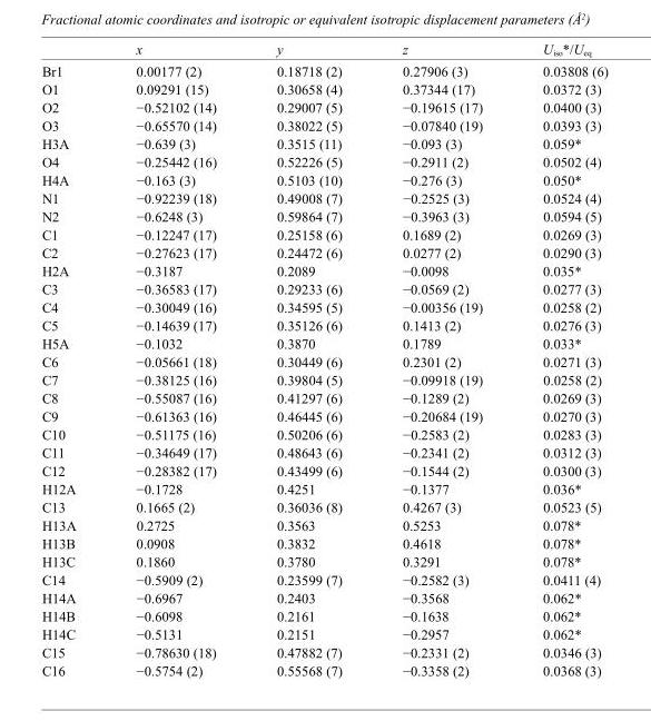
<table><thead><tr><td></td><td>x</td><td>y</td><td>z</td><td>U<sub>iso</sub>*/U<sub>eq</sub></td></tr></thead><tbody><tr><td>Br1</td><td>0.00177 (2)</td><td>0.18718 (2)</td><td>0.27906 (3)</td><td>0.03808 (6)</td></tr><tr><td>O1</td><td>0.09291 (15)</td><td>0.30658 (4)</td><td>0.37344 (17)</td><td>0.0372 (3)</td></tr><tr><td>O2</td><td>−0.52102 (14)</td><td>0.29007 (5)</td><td>−0.19615 (17)</td><td>0.0400 (3)</td></tr><tr><td>O3</td><td>−0.65570 (14)</td><td>0.38022 (5)</td><td>−0.07840 (19)</td><td>0.0393 (3)</td></tr><tr><td>H3A</td><td>−0.639 (3)</td><td>0.3515 (11)</td><td>−0.093 (3)</td><td>0.059*</td></tr><tr><td>O4</td><td>−0.25442 (16)</td><td>0.52226 (5)</td><td>−0.2911 (2)</td><td>0.0502 (4)</td></tr><tr><td>H4A</td><td>−0.163 (3)</td><td>0.5103 (10)</td><td>−0.276 (3)</td><td>0.050*</td></tr><tr><td>N1</td><td>−0.92239 (18)</td><td>0.49008 (7)</td><td>−0.2525 (3)</td><td>0.0524 (4)</td></tr><tr><td>N2</td><td>−0.6248 (3)</td><td>0.59864 (7)</td><td>−0.3963 (3)</td><td>0.0594 (5)</td></tr><tr><td>C1</td><td>−0.12247 (17)</td><td>0.25158 (6)</td><td>0.1689 (2)</td><td>0.0269 (3)</td></tr><tr><td>C2</td><td>−0.27623 (17)</td><td>0.24472 (6)</td><td>0.0277 (2)</td><td>0.0290 (3)</td></tr><tr><td>H2A</td><td>−0.3187</td><td>0.2089</td><td>−0.0098</td><td>0.035*</td></tr><tr><td>C3</td><td>−0.36583 (17)</td><td>0.29233 (6)</td><td>−0.0569 (2)</td><td>0.0277 (3)</td></tr><tr><td>C4</td><td>−0.30049 (16)</td><td>0.34595 (5)</td><td>−0.00356 (19)</td><td>0.0258 (2)</td></tr><tr><td>C5</td><td>−0.14639 (17)</td><td>0.35126 (6)</td><td>0.1413 (2)</td><td>0.0276 (3)</td></tr><tr><td>H5A</td><td>−0.1032</td><td>0.3870</td><td>0.1789</td><td>0.033*</td></tr><tr><td>C6</td><td>−0.05661 (18)</td><td>0.30449 (6)</td><td>0.2301 (2)</td><td>0.0271 (3)</td></tr><tr><td>C7</td><td>−0.38125 (16)</td><td>0.39804 (5)</td><td>−0.09918 (19)</td><td>0.0258 (2)</td></tr><tr><td>C8</td><td>−0.55087 (16)</td><td>0.41297 (6)</td><td>−0.1289 (2)</td><td>0.0269 (3)</td></tr><tr><td>C9</td><td>−0.61363 (16)</td><td>0.46445 (6)</td><td>−0.20684 (19)</td><td>0.0270 (3)</td></tr><tr><td>C10</td><td>−0.51175 (16)</td><td>0.50206 (6)</td><td>−0.2583 (2)</td><td>0.0283 (3)</td></tr><tr><td>C11</td><td>−0.34649 (17)</td><td>0.48643 (6)</td><td>−0.2341 (2)</td><td>0.0312 (3)</td></tr><tr><td>C12</td><td>−0.28382 (17)</td><td>0.43499 (6)</td><td>−0.1544 (2)</td><td>0.0300 (3)</td></tr><tr><td>H12A</td><td>−0.1728</td><td>0.4251</td><td>−0.1377</td><td>0.036*</td></tr><tr><td>C13</td><td>0.1665 (2)</td><td>0.36036 (8)</td><td>0.4267 (3)</td><td>0.0523 (5)</td></tr><tr><td>H13A</td><td>0.2725</td><td>0.3563</td><td>0.5253</td><td>0.078*</td></tr><tr><td>H13B</td><td>0.0908</td><td>0.3832</td><td>0.4618</td><td>0.078*</td></tr><tr><td>H13C</td><td>0.1860</td><td>0.3780</td><td>0.3291</td><td>0.078*</td></tr><tr><td>C14</td><td>−0.5909 (2)</td><td>0.23599 (7)</td><td>−0.2582 (3)</td><td>0.0411 (4)</td></tr><tr><td>H14A</td><td>−0.6967</td><td>0.2403</td><td>−0.3568</td><td>0.062*</td></tr><tr><td>H14B</td><td>−0.6098</td><td>0.2161</td><td>−0.1638</td><td>0.062*</td></tr><tr><td>H14C</td><td>−0.5131</td><td>0.2151</td><td>−0.2957</td><td>0.062*</td></tr><tr><td>C15</td><td>−0.78630 (18)</td><td>0.47882 (7)</td><td>−0.2331 (2)</td><td>0.0346 (3)</td></tr><tr><td>C16</td><td>−0.5754 (2)</td><td>0.55568 (7)</td><td>−0.3358 (2)</td><td>0.0368 (3)</td></tr></tbody></table>